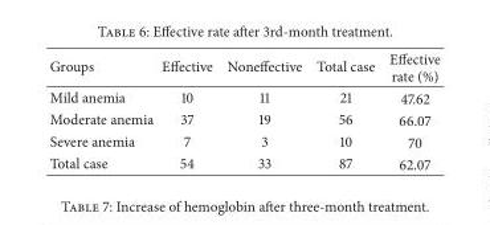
<table><thead><tr><td>Groups</td><td>Effective</td><td>Noneffective</td><td>Total case</td><td>Effective rate (%)</td></tr></thead><tbody><tr><td>Mild anemia</td><td>10</td><td>11</td><td>21</td><td>47.62</td></tr><tr><td>Moderate anemia</td><td>37</td><td>19</td><td>56</td><td>66.07</td></tr><tr><td>Severe anemia</td><td>7</td><td>3</td><td>10</td><td>70</td></tr><tr><td>Total case</td><td>54</td><td>33</td><td>87</td><td>62.07</td></tr></tbody></table>